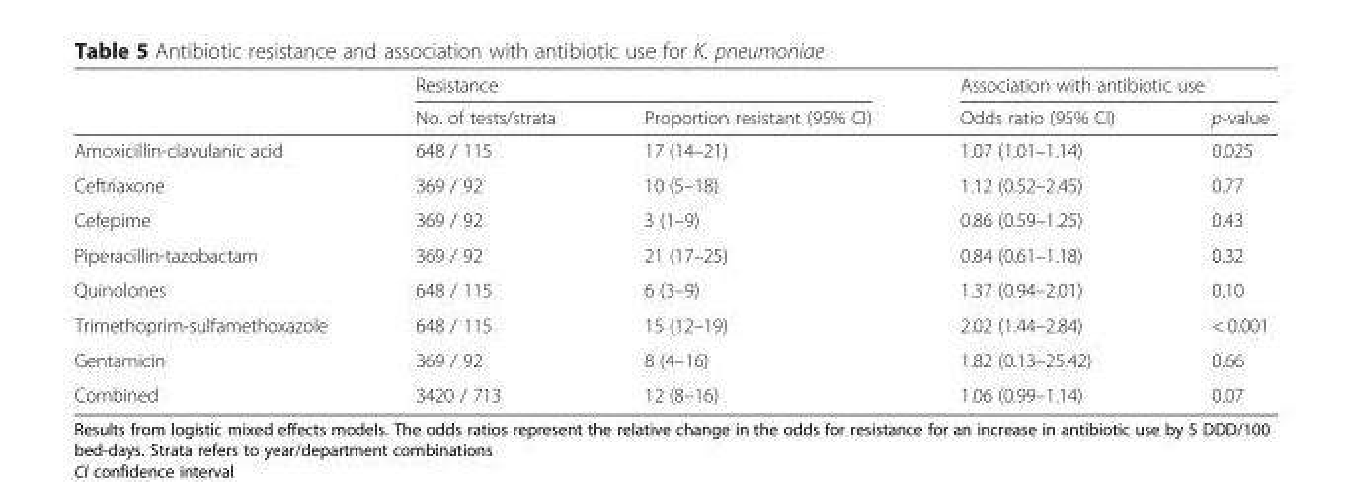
<table><thead><tr><td rowspan="2"></td><td colspan="2">Resistance</td><td colspan="2">Association with antibiotic use</td></tr><tr><td>No. of tests/strata</td><td>Proportion resistant (95% CI)</td><td>Odds ratio (95% CI)</td><td>p-value</td></tr></thead><tbody><tr><td>Amoxicillin-clavulanic acid</td><td>648 / 115</td><td>17 (14–21)</td><td>1.07 (1.01–1.14)</td><td>0.025</td></tr><tr><td>Ceftriaxone</td><td>369 / 92</td><td>10 (5–18)</td><td>1.12 (0.52–2.45)</td><td>0.77</td></tr><tr><td>Cefepime</td><td>369 / 92</td><td>3 (1–9)</td><td>0.86 (0.59–1.25)</td><td>0.43</td></tr><tr><td>Piperacillin-tazobactam</td><td>369 / 92</td><td>21 (17–25)</td><td>0.84 (0.61–1.18)</td><td>0.32</td></tr><tr><td>Quinolones</td><td>648 / 115</td><td>6 (3–9)</td><td>1.37 (0.94–2.01)</td><td>0.10</td></tr><tr><td>Trimethoprim-sulfamethoxazole</td><td>648 / 115</td><td>15 (12–19)</td><td>2.02 (1.44–2.84)</td><td>&lt; 0.001</td></tr><tr><td>Gentamicin</td><td>369 / 92</td><td>8 (4–16)</td><td>1.82 (0.13–25.42)</td><td>0.66</td></tr><tr><td>Combined</td><td>3420 / 713</td><td>12 (8–16)</td><td>1.06 (0.99–1.14)</td><td>0.07</td></tr></tbody></table>